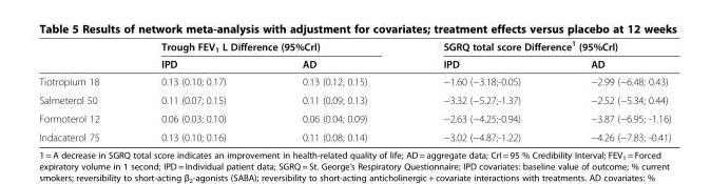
<table><thead><tr><td rowspan="2"></td><td colspan="2">Trough FEV<sub>1</sub> L Difference (95%CrI)</td><td colspan="2">SGRQ total score Difference<sup>1</sup> (95%CrI)</td></tr><tr><td>IPD</td><td>AD</td><td>IPD</td><td>AD</td></tr></thead><tbody><tr><td>Tiotropium 18</td><td>0.13 (0.10; 0.17)</td><td>0.13 (0.12; 0.15)</td><td>−1.60 (−3.18;-0.05)</td><td>−2.99 (−6.48; 0.43)</td></tr><tr><td>Salmeterol 50</td><td>0.11 (0.07; 0.15)</td><td>0.11 (0.09; 0.13)</td><td>−3.32 (−5.27;-1.37)</td><td>−2.52 (−5.34; 0.44)</td></tr><tr><td>Formoterol 12</td><td>0.06 (0.03; 0.10)</td><td>0.06 (0.04; 0.09)</td><td>−2.63 (−4.25;-0.94)</td><td>−3.87 (−6.95; -1.16)</td></tr><tr><td>Indacaterol 75</td><td>0.13 (0.10; 0.16)</td><td>0.11 (0.08; 0.14)</td><td>−3.02 (−4.87;-1.22)</td><td>−4.26 (−7.83; -0.41)</td></tr></tbody></table>